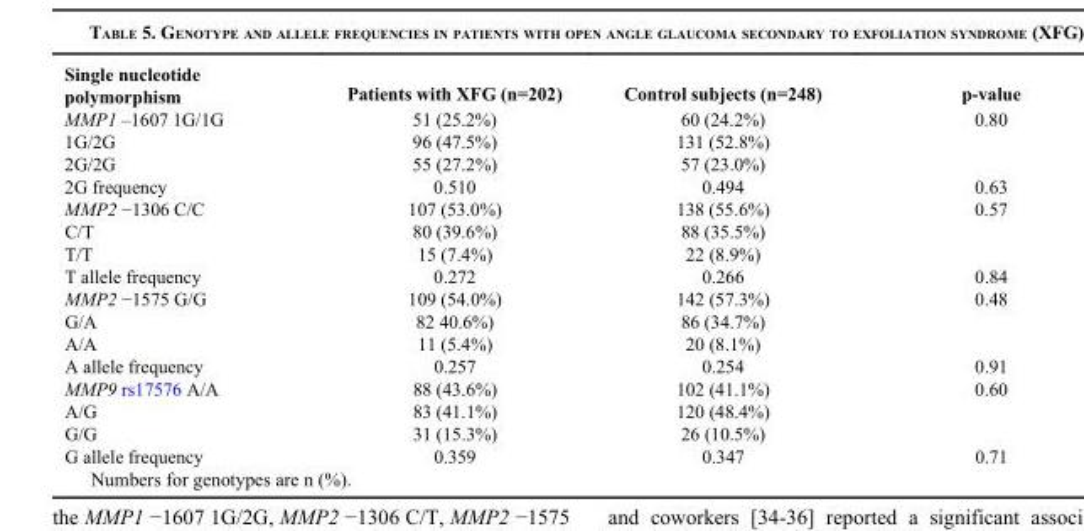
<table><thead><tr><td>Single nucleotide polymorphism</td><td>Patients with XFG (n=202)</td><td>Control subjects (n=248)</td><td>p-value</td></tr></thead><tbody><tr><td>MMP1 –1607 1G/1G</td><td>51 (25.2%)</td><td>60 (24.2%)</td><td>0.80</td></tr><tr><td>1G/2G</td><td>96 (47.5%)</td><td>131 (52.8%)</td><td></td></tr><tr><td>2G/2G</td><td>55 (27.2%)</td><td>57 (23.0%)</td><td></td></tr><tr><td>2G frequency</td><td>0.510</td><td>0.494</td><td>0.63</td></tr><tr><td>MMP2 −1306 C/C</td><td>107 (53.0%)</td><td>138 (55.6%)</td><td>0.57</td></tr><tr><td>C/T</td><td>80 (39.6%)</td><td>88 (35.5%)</td><td></td></tr><tr><td>T/T</td><td>15 (7.4%)</td><td>22 (8.9%)</td><td></td></tr><tr><td>T allele frequency</td><td>0.272</td><td>0.266</td><td>0.84</td></tr><tr><td>MMP2 −1575 G/G</td><td>109 (54.0%)</td><td>142 (57.3%)</td><td>0.48</td></tr><tr><td>G/A</td><td>82 40.6%)</td><td>86 (34.7%)</td><td></td></tr><tr><td>A/A</td><td>11 (5.4%)</td><td>20 (8.1%)</td><td></td></tr><tr><td>A allele frequency</td><td>0.257</td><td>0.254</td><td>0.91</td></tr><tr><td>MMP9 rs17576 A/A</td><td>88 (43.6%)</td><td>102 (41.1%)</td><td>0.60</td></tr><tr><td>A/G</td><td>83 (41.1%)</td><td>120 (48.4%)</td><td></td></tr><tr><td>G/G</td><td>31 (15.3%)</td><td>26 (10.5%)</td><td></td></tr><tr><td>G allele frequency</td><td>0.359</td><td>0.347</td><td>0.71</td></tr></tbody></table>